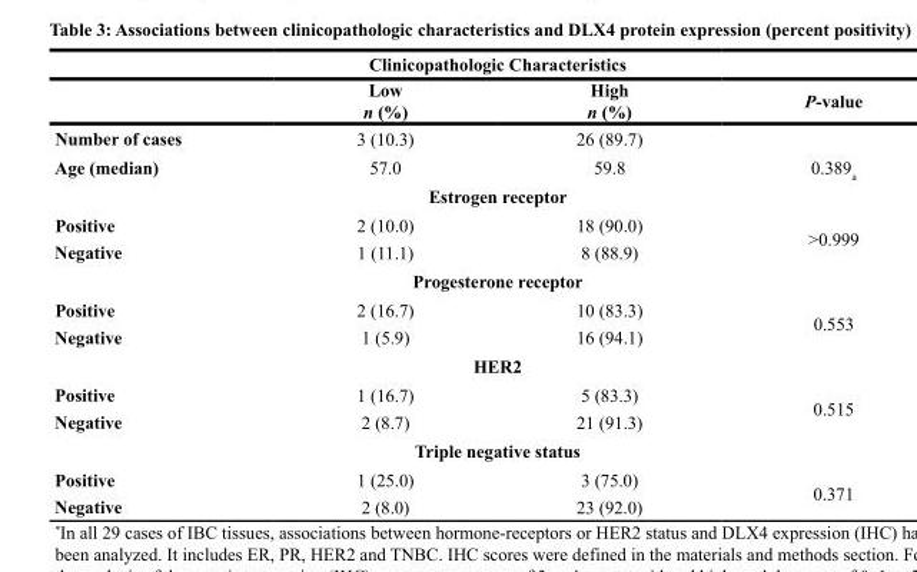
<table><thead><tr><td colspan="4">clinicopathologic characteristics</td></tr><tr><td></td><td>low n (%)</td><td>High n (%)</td><td>P-value</td></tr></thead><tbody><tr><td>number of cases</td><td>3 (10.3)</td><td>26 (89.7)</td><td></td></tr><tr><td>Age (median)</td><td>57.0</td><td>59.8</td><td>0.389<sub>a</sub></td></tr><tr><td colspan="4">estrogen receptor</td></tr><tr><td>Positive</td><td>2 (10.0)</td><td>18 (90.0)</td><td rowspan="2">&gt;0.999</td></tr><tr><td>negative</td><td>1 (11.1)</td><td>8 (88.9)</td></tr><tr><td colspan="4">Progesterone receptor</td></tr><tr><td>Positive</td><td>2 (16.7)</td><td>10 (83.3)</td><td rowspan="2">0.553</td></tr><tr><td>negative</td><td>1 (5.9)</td><td>16 (94.1)</td></tr><tr><td colspan="4">Her2</td></tr><tr><td>Positive</td><td>1 (16.7)</td><td>5 (83.3)</td><td rowspan="2">0.515</td></tr><tr><td>negative</td><td>2 (8.7)</td><td>21 (91.3)</td></tr><tr><td colspan="4">triple negative status</td></tr><tr><td>Positive</td><td>1 (25.0)</td><td>3 (75.0)</td><td rowspan="2">0.371</td></tr><tr><td>negative</td><td>2 (8.0)</td><td>23 (92.0)</td></tr></tbody></table>